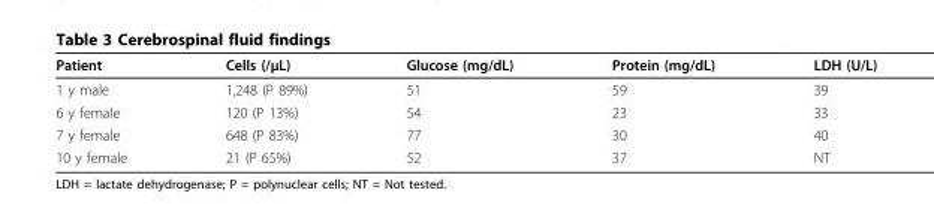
<table><thead><tr><td>Patient</td><td>Cells (/μL)</td><td>Glucose (mg/dL)</td><td>Protein (mg/dL)</td><td>LDH (U/L)</td></tr></thead><tbody><tr><td>1 y male</td><td>1,248 (P 89%)</td><td>51</td><td>59</td><td>39</td></tr><tr><td>6 y female</td><td>120 (P 13%)</td><td>54</td><td>23</td><td>33</td></tr><tr><td>7 y female</td><td>648 (P 83%)</td><td>77</td><td>30</td><td>40</td></tr><tr><td>10 y female</td><td>21 (P 65%)</td><td>52</td><td>37</td><td>NT</td></tr></tbody></table>